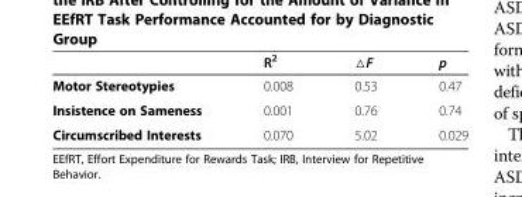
<table><thead><tr><td></td><td>R<sup>2</sup></td><td>△F</td><td>p</td></tr></thead><tbody><tr><td>Motor Stereotypies</td><td>0.008</td><td>0.53</td><td>0.47</td></tr><tr><td>Insistence on Sameness</td><td>0.001</td><td>0.76</td><td>0.74</td></tr><tr><td>Circumscribed Interests</td><td>0.070</td><td>5.02</td><td>0.029</td></tr></tbody></table>